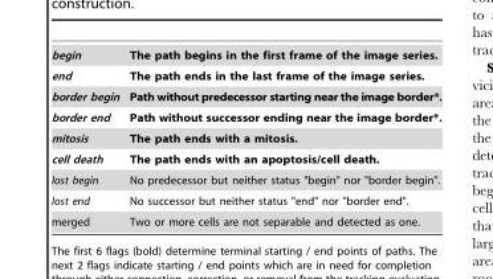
<table><tbody><tr><td>begin</td><td>The path begins in the first frame of the image series.</td></tr><tr><td>end</td><td>The path ends in the last frame of the image series.</td></tr><tr><td>border begin</td><td>Path without predecessor starting near the image border*.</td></tr><tr><td>border end</td><td>Path without successor ending near the image border*.</td></tr><tr><td>mitosis</td><td>The path ends with a mitosis.</td></tr><tr><td>cell death</td><td>The path ends with an apoptosis/cell death.</td></tr><tr><td>lost begin</td><td>No predecessor but neither status &quot;begin&quot; nor &quot;border begin&quot;.</td></tr><tr><td>lost end</td><td>No successor but neither status &quot;end&quot; nor &quot;border end&quot;.</td></tr><tr><td>merged</td><td>Two or more cells are not separable and detected as one.</td></tr></tbody></table>